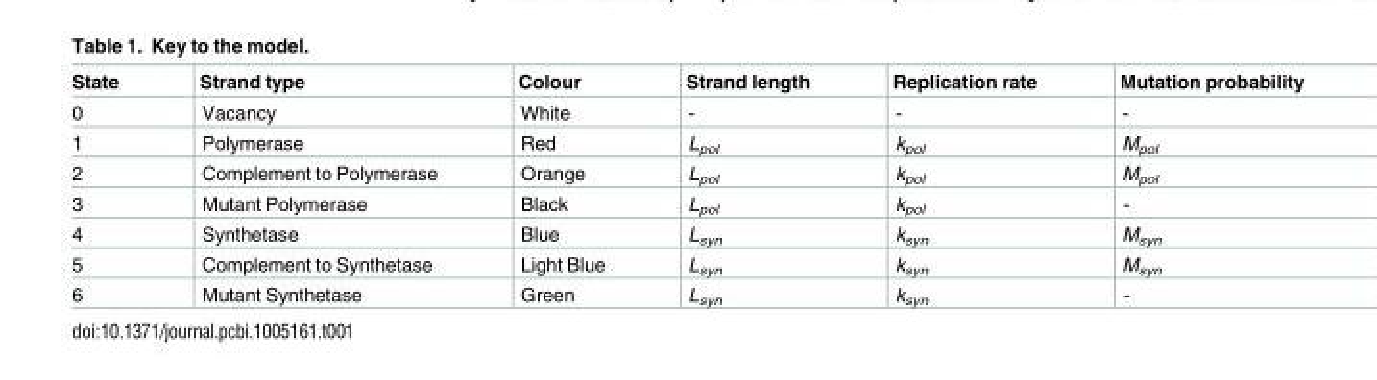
<table><thead><tr><td>State</td><td>Strand type</td><td>Colour</td><td>Strand length</td><td>Replication rate</td><td>Mutation probability</td></tr></thead><tbody><tr><td>0</td><td>Vacancy</td><td>White</td><td>-</td><td>-</td><td>-</td></tr><tr><td>1</td><td>Polymerase</td><td>Red</td><td>L<sub>pol</sub></td><td>k<sub>pol</sub></td><td>M<sub>pol</sub></td></tr><tr><td>2</td><td>Complement to Polymerase</td><td>Orange</td><td>L<sub>pol</sub></td><td>k<sub>pol</sub></td><td>M<sub>pol</sub></td></tr><tr><td>3</td><td>Mutant Polymerase</td><td>Black</td><td>L<sub>pol</sub></td><td>k<sub>pol</sub></td><td>-</td></tr><tr><td>4</td><td>Synthetase</td><td>Blue</td><td>L<sub>syn</sub></td><td>k<sub>syn</sub></td><td>M<sub>syn</sub></td></tr><tr><td>5</td><td>Complement to Synthetase</td><td>Light Blue</td><td>L<sub>syn</sub></td><td>k<sub>syn</sub></td><td>M<sub>syn</sub></td></tr><tr><td>6</td><td>Mutant Synthetase</td><td>Green</td><td>L<sub>syn</sub></td><td>k<sub>syn</sub></td><td>-</td></tr></tbody></table>